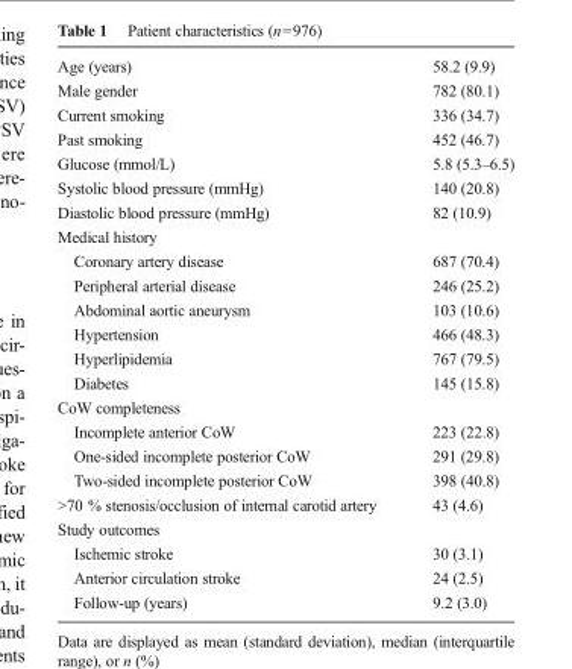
<table><tbody><tr><td>Age (years)</td><td>58.2 (9.9)</td></tr><tr><td>Male gender</td><td>782 (80.1)</td></tr><tr><td>Current smoking</td><td>336 (34.7)</td></tr><tr><td>Past smoking</td><td>452 (46.7)</td></tr><tr><td>Glucose (mmol/L)</td><td>5.8 (5.3–6.5)</td></tr><tr><td>Systolic blood pressure (mmHg)</td><td>140 (20.8)</td></tr><tr><td>Diastolic blood pressure (mmHg)</td><td>82 (10.9)</td></tr><tr><td colspan="2">Medical history</td></tr><tr><td>Coronary artery disease</td><td>687 (70.4)</td></tr><tr><td>Peripheral arterial disease</td><td>246 (25.2)</td></tr><tr><td>Abdominal aortic aneurysm</td><td>103 (10.6)</td></tr><tr><td>Hypertension</td><td>466 (48.3)</td></tr><tr><td>Hyperlipidemia</td><td>767 (79.5)</td></tr><tr><td>Diabetes</td><td>145 (15.8)</td></tr><tr><td colspan="2">CoW completeness</td></tr><tr><td>Incomplete anterior CoW</td><td>223 (22.8)</td></tr><tr><td>One-sided incomplete posterior CoW</td><td>291 (29.8)</td></tr><tr><td>Two-sided incomplete posterior CoW</td><td>398 (40.8)</td></tr><tr><td>&gt;70 % stenosis/occlusion of internal carotid artery</td><td>43 (4.6)</td></tr><tr><td colspan="2">Study outcomes</td></tr><tr><td>Ischemic stroke</td><td>30 (3.1)</td></tr><tr><td>Anterior circulation stroke</td><td>24 (2.5)</td></tr><tr><td>Follow-up (years)</td><td>9.2 (3.0)</td></tr></tbody></table>